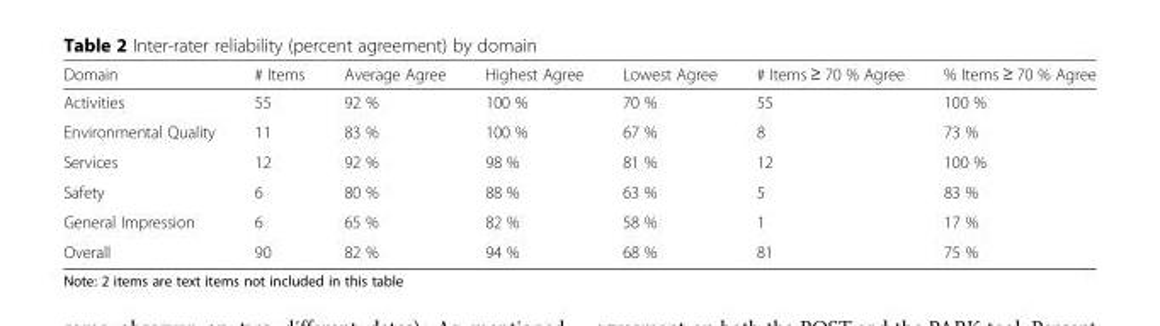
<table><thead><tr><td>Domain</td><td># Items</td><td>Average Agree</td><td>Highest Agree</td><td>Lowest Agree</td><td># Items ≥ 70 % Agree</td><td>% Items ≥ 70 % Agree</td></tr></thead><tbody><tr><td>Activities</td><td>55</td><td>92 %</td><td>100 %</td><td>70 %</td><td>55</td><td>100 %</td></tr><tr><td>Environmental Quality</td><td>11</td><td>83 %</td><td>100 %</td><td>67 %</td><td>8</td><td>73 %</td></tr><tr><td>Services</td><td>12</td><td>92 %</td><td>98 %</td><td>81 %</td><td>12</td><td>100 %</td></tr><tr><td>Safety</td><td>6</td><td>80 %</td><td>88 %</td><td>63 %</td><td>5</td><td>83 %</td></tr><tr><td>General Impression</td><td>6</td><td>65 %</td><td>82 %</td><td>58 %</td><td>1</td><td>17 %</td></tr><tr><td>Overall</td><td>90</td><td>82 %</td><td>94 %</td><td>68 %</td><td>81</td><td>75 %</td></tr></tbody></table>